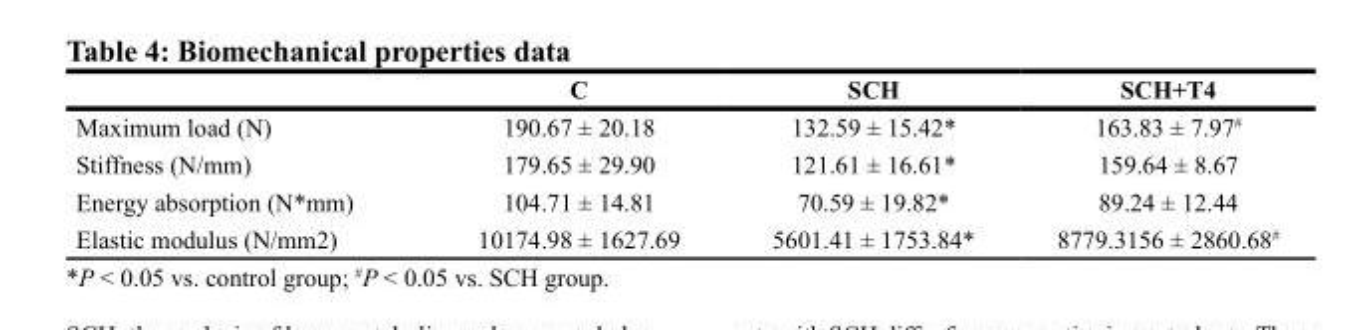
<table><thead><tr><td></td><td>C</td><td>SCH</td><td>SCH+T4</td></tr></thead><tbody><tr><td>Maximum load (N)</td><td>190.67 ± 20.18</td><td>132.59 ± 15.42*</td><td>163.83 ± 7.97<sup>#</sup></td></tr><tr><td>Stiffness (N/mm)</td><td>179.65 ± 29.90</td><td>121.61 ± 16.61*</td><td>159.64 ± 8.67</td></tr><tr><td>Energy absorption (N*mm)</td><td>104.71 ± 14.81</td><td>70.59 ± 19.82*</td><td>89.24 ± 12.44</td></tr><tr><td>Elastic modulus (N/mm2)</td><td>10174.98 ± 1627.69</td><td>5601.41 ± 1753.84*</td><td>8779.3156 ± 2860.68<sup>#</sup></td></tr></tbody></table>